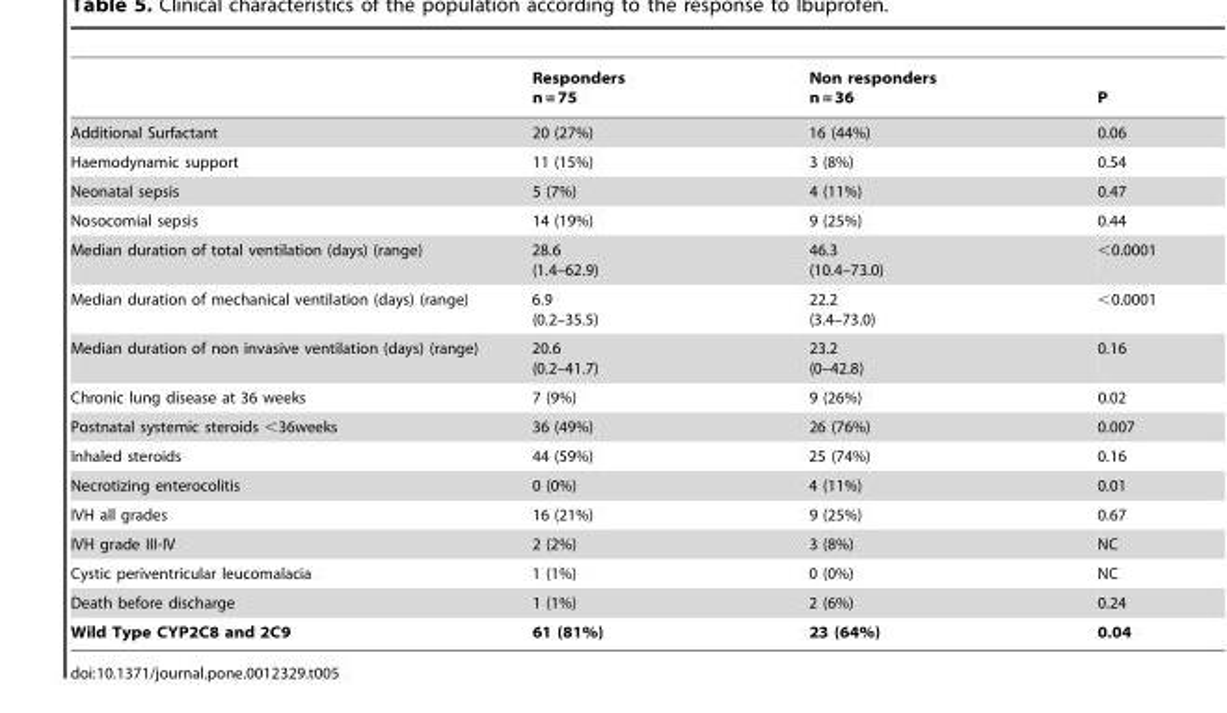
<table><thead><tr><td></td><td>Responders n = 75</td><td>Non responders n = 36</td><td>P</td></tr></thead><tbody><tr><td>Additional Surfactant</td><td>20 (27%)</td><td>16 (44%)</td><td>0.06</td></tr><tr><td>Haemodynamic support</td><td>11 (15%)</td><td>3 (8%)</td><td>0.54</td></tr><tr><td>Neonatal sepsis</td><td>5 (7%)</td><td>4 (11%)</td><td>0.47</td></tr><tr><td>Nosocomial sepsis</td><td>14 (19%)</td><td>9 (25%)</td><td>0.44</td></tr><tr><td>Median duration of total ventilation (days) (range)</td><td>28.6 (1.4–62.9)</td><td>46.3 (10.4–73.0)</td><td>&lt;0.0001</td></tr><tr><td>Median duration of mechanical ventilation (days) (range)</td><td>6.9 (0.2–35.5)</td><td>22.2 (3.4–73.0)</td><td>&lt;0.0001</td></tr><tr><td>Median duration of non invasive ventilation (days) (range)</td><td>20.6 (0.2–41.7)</td><td>23.2 (0–42.8)</td><td>0.16</td></tr><tr><td>Chronic lung disease at 36 weeks</td><td>7 (9%)</td><td>9 (26%)</td><td>0.02</td></tr><tr><td>Postnatal systemic steroids &lt;36weeks</td><td>36 (49%)</td><td>26 (76%)</td><td>0.007</td></tr><tr><td>Inhaled steroids</td><td>44 (59%)</td><td>25 (74%)</td><td>0.16</td></tr><tr><td>Necrotizing enterocolitis</td><td>0 (0%)</td><td>4 (11%)</td><td>0.01</td></tr><tr><td>IVH all grades</td><td>16 (21%)</td><td>9 (25%)</td><td>0.67</td></tr><tr><td>IVH grade III-IV</td><td>2 (2%)</td><td>3 (8%)</td><td>NC</td></tr><tr><td>Cystic periventricular leucomalacia</td><td>1 (1%)</td><td>0 (0%)</td><td>NC</td></tr><tr><td>Death before discharge</td><td>1 (1%)</td><td>2 (6%)</td><td>0.24</td></tr><tr><td>Wild Type CYP2C8 and 2C9</td><td>61 (81%)</td><td>23 (64%)</td><td>0.04</td></tr></tbody></table>